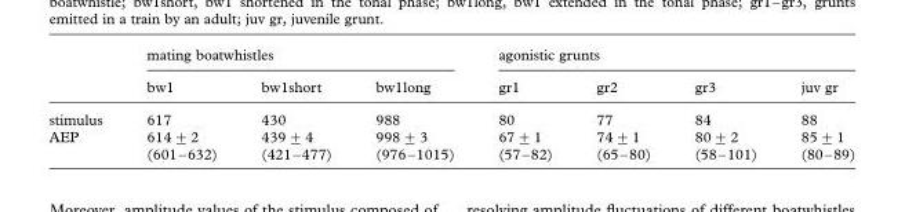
<table><thead><tr><td rowspan="2"></td><td colspan="3">mating boatwhistles</td><td colspan="4">agonistic grunts</td></tr><tr><td>bw1</td><td>bw1short</td><td>bw1long</td><td>gr1</td><td>gr2</td><td>gr3</td><td>juv gr</td></tr></thead><tbody><tr><td>stimulus</td><td>617</td><td>430</td><td>988</td><td>80</td><td>77</td><td>84</td><td>88</td></tr><tr><td>AEP</td><td>614 +2 (601–632)</td><td>439 +4 (421–477)</td><td>998 +3 (976–1015)</td><td>67+1 (57–82)</td><td>74+ 1 (65–80)</td><td>80+ 2 (58–101)</td><td>85+1 (80–89)</td></tr></tbody></table>